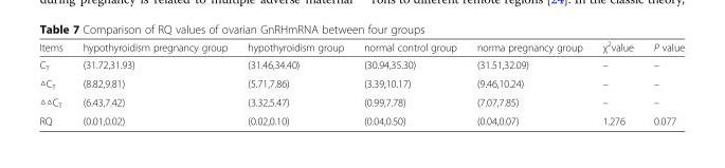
<table><thead><tr><td>Items</td><td>hypothyroidism pregnancy group</td><td>hypothyroidism group</td><td>normal control group</td><td>norma pregnancy group</td><td>χ<sup>2</sup>value</td><td>P value</td></tr></thead><tbody><tr><td>C<sub>T</sub></td><td>(31.72,31.93)</td><td>(31.46,34.40)</td><td>(30.94,35.30)</td><td>(31.51,32.09)</td><td>–</td><td>–</td></tr><tr><td>△C<sub>T</sub></td><td>(8.82,9.81)</td><td>(5.71,7.86)</td><td>(3.39,10.17)</td><td>(9.46,10.24)</td><td>–</td><td>–</td></tr><tr><td>△△C<sub>T</sub></td><td>(6.43,7.42)</td><td>(3.32,5.47)</td><td>(0.99,7.78)</td><td>(7.07,7.85)</td><td>–</td><td>–</td></tr><tr><td>RQ</td><td>(0.01,0.02)</td><td>(0.02,0.10)</td><td>(0.04,0.50)</td><td>(0.04,0.07)</td><td>1.276</td><td>0.077</td></tr></tbody></table>